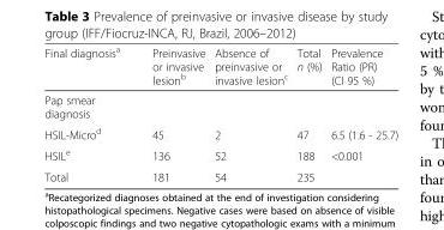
<table><thead><tr><td>Final diagnosis<sup>a</sup></td><td>Preinvasive or invasive lesion<sup>b</sup></td><td>Absence of preinvasive or invasive lesion<sup>c</sup></td><td>Total n (%)</td><td>Prevalence Ratio (PR) (CI 95 %)</td></tr></thead><tbody><tr><td colspan="5">Pap smear diagnosis</td></tr><tr><td>HSIL-Micro<sup>d</sup></td><td>45</td><td>2</td><td>47</td><td>6.5 (1.6 - 25.7)</td></tr><tr><td>HSIL<sup>e</sup></td><td>136</td><td>52</td><td>188</td><td>&lt;0.001</td></tr><tr><td>Total</td><td>181</td><td>54</td><td>235</td><td></td></tr></tbody></table>